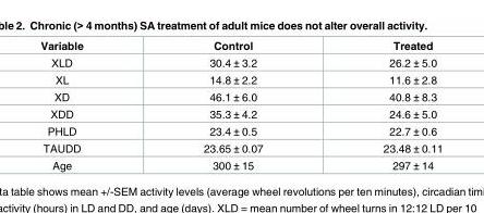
<table><thead><tr><td>Variable</td><td>Control</td><td>Treated</td></tr></thead><tbody><tr><td>XLD</td><td>30.4 ± 3.2</td><td>26.2 ± 5.0</td></tr><tr><td>XL</td><td>14.8 ± 2.2</td><td>11.6 ± 2.8</td></tr><tr><td>XD</td><td>46.1 ± 6.0</td><td>40.8 ± 8.3</td></tr><tr><td>XDD</td><td>35.3 ± 4.2</td><td>24.6 ± 5.0</td></tr><tr><td>PHLD</td><td>23.4 ± 0.5</td><td>22.7 ± 0.6</td></tr><tr><td>TAUDD</td><td>23.65 ± 0.07</td><td>23.48 ± 0.11</td></tr><tr><td>Age</td><td>300 ± 15</td><td>297 ± 14</td></tr></tbody></table>